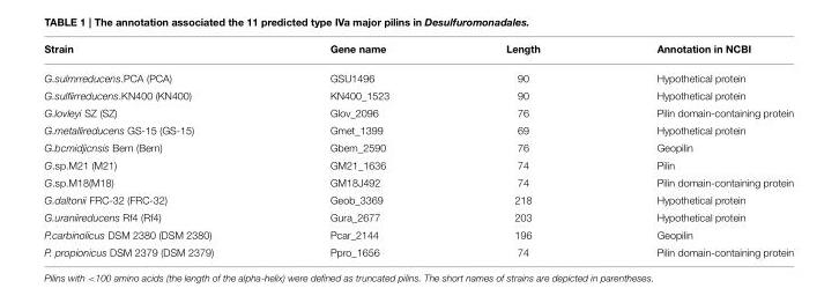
<table><thead><tr><td>Strain</td><td>Gene name</td><td>Length</td><td>Annotation in NCBI</td></tr></thead><tbody><tr><td>G.sulmrreducens.PCA (PCA)</td><td>GSU1496</td><td>90</td><td>Hypothetical protein</td></tr><tr><td>G.sulfiirreducens.KN400 (KN400)</td><td>KN400_1523</td><td>90</td><td>Hypothetical protein</td></tr><tr><td>G.lovleyi SZ (SZ)</td><td>Glov_2096</td><td>76</td><td>Pilin domain-containing protein</td></tr><tr><td>G.metallireducens GS-15 (GS-15)</td><td>Gmet_1399</td><td>69</td><td>Hypothetical protein</td></tr><tr><td>G.bcmidjicnsis Bern (Bern)</td><td>Gbem_2590</td><td>76</td><td>Geopilin</td></tr><tr><td>G.sp.M21 (M21)</td><td>GM21_1636</td><td>74</td><td>Pilin</td></tr><tr><td>G.sp.M18(M18)</td><td>GM18J492</td><td>74</td><td>Pilin domain-containing protein</td></tr><tr><td>G.daltonii FRC-32 (FRC-32)</td><td>Geob_3369</td><td>218</td><td>Hypothetical protein</td></tr><tr><td>G.uraniireducens Rf4 (Rf4)</td><td>Gura_2677</td><td>203</td><td>Hypothetical protein</td></tr><tr><td>P.carbinolicus DSM 2380 (DSM 2380)</td><td>Pcar_2144</td><td>196</td><td>Geopilin</td></tr><tr><td>P. propionicus DSM 2379 (DSM 2379)</td><td>Ppro_1656</td><td>74</td><td>Pilin domain-containing protein</td></tr></tbody></table>